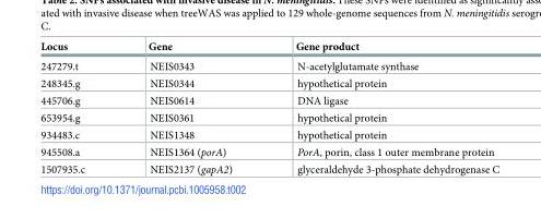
<table><thead><tr><td>Locus</td><td>Gene</td><td>Gene product</td></tr></thead><tbody><tr><td>247279.t</td><td>NEIS0343</td><td>N-acetylglutamate synthase</td></tr><tr><td>248345.g</td><td>NEIS0344</td><td>hypothetical protein</td></tr><tr><td>445706.g</td><td>NEIS0614</td><td>DNA ligase</td></tr><tr><td>653954.g</td><td>NEIS0361</td><td>hypothetical protein</td></tr><tr><td>934483.c</td><td>NEIS1348</td><td>hypothetical protein</td></tr><tr><td>945508.a</td><td>NEIS1364 (porA)</td><td>PorA, porin, class 1 outer membrane protein</td></tr><tr><td>1507935.c</td><td>NEIS2137 (gapA2)</td><td>glyceraldehyde 3-phosphate dehydrogenase C</td></tr></tbody></table>